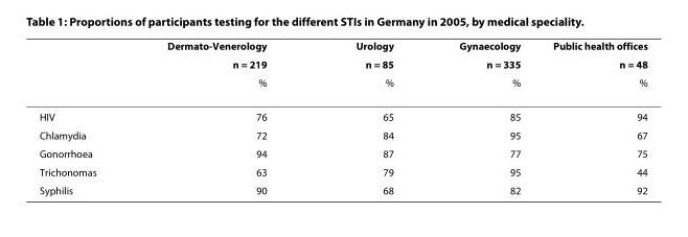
<table><thead><tr><td rowspan="3"></td><td rowspan="3">Dermato-Venerology n = 219 %</td><td rowspan="3">Urology n = 85 %</td><td rowspan="3">Gynaecology n = 335 %</td><td rowspan="3">Public health offices n = 48 %</td></tr><tr></tr><tr></tr></thead><tbody><tr><td>HIV</td><td>76</td><td>65</td><td>85</td><td>94</td></tr><tr><td>Chlamydia</td><td>72</td><td>84</td><td>95</td><td>67</td></tr><tr><td>Gonorrhoea</td><td>94</td><td>87</td><td>77</td><td>75</td></tr><tr><td>Trichonomas</td><td>63</td><td>79</td><td>95</td><td>44</td></tr><tr><td>Syphilis</td><td>90</td><td>68</td><td>82</td><td>92</td></tr></tbody></table>